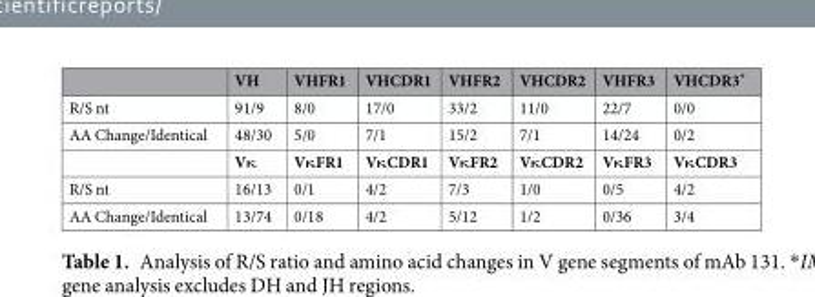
<table><thead><tr><td></td><td>VH</td><td>VHFR1</td><td>VHCDR1</td><td>VHFR2</td><td>VHCDR2</td><td>VHFR3</td><td>VHCDR3*</td></tr></thead><tbody><tr><td>R/S nt</td><td>91/9</td><td>8/0</td><td>17/0</td><td>33/2</td><td>11/0</td><td>22/7</td><td>0/0</td></tr><tr><td rowspan="2">AA Change/Identical</td><td>48/30</td><td>5/0</td><td>7/1</td><td>15/2</td><td>7/1</td><td>14/24</td><td>0/2</td></tr><tr><td>Vκ</td><td>VκFR1</td><td>VκCDR1</td><td>VκFR2</td><td>VκCDR2</td><td>VκFR3</td><td>VκCDR3</td></tr><tr><td>R/S nt</td><td>16/13</td><td>0/1</td><td>4/2</td><td>7/3</td><td>1/0</td><td>0/5</td><td>4/2</td></tr><tr><td>AA Change/Identical</td><td>13/74</td><td>0/18</td><td>4/2</td><td>5/12</td><td>1/2</td><td>0/36</td><td>3/4</td></tr></tbody></table>